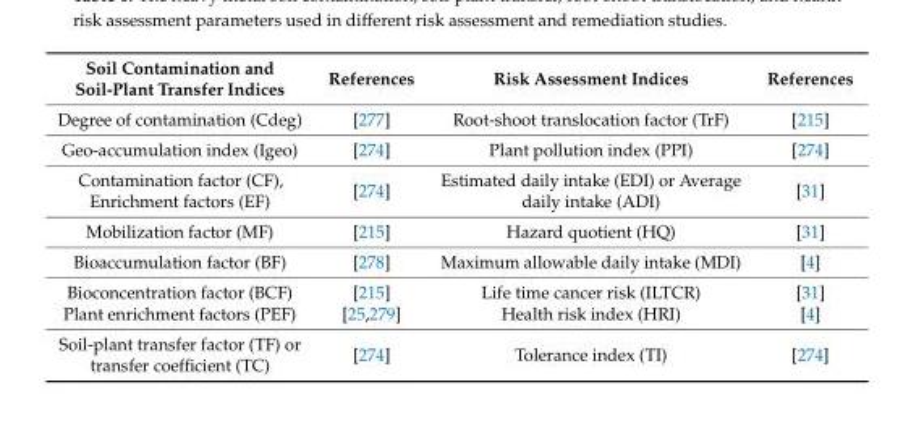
<table><thead><tr><td>Soil Contamination and Soil-Plant Transfer Indices</td><td>References</td><td>Risk Assessment Indices</td><td>References</td></tr></thead><tbody><tr><td>Degree of contamination (Cdeg)</td><td>[277]</td><td>Root-shoot translocation factor (TrF)</td><td>[215]</td></tr><tr><td>Geo-accumulation index (Igeo)</td><td>[274]</td><td>Plant pollution index (PPI)</td><td>[274]</td></tr><tr><td>Contamination factor (CF), Enrichment factors (EF)</td><td>[274]</td><td>Estimated daily intake (EDI) or Average daily intake (ADI)</td><td>[31]</td></tr><tr><td>Mobilization factor (MF)</td><td>[215]</td><td>Hazard quotient (HQ)</td><td>[31]</td></tr><tr><td>Bioaccumulation factor (BF)</td><td>[278]</td><td>Maximum allowable daily intake (MDI)</td><td>[4]</td></tr><tr><td>Bioconcentration factor (BCF)</td><td>[215]</td><td>Life time cancer risk (ILTCR)</td><td>[31]</td></tr><tr><td>Plant enrichment factors (PEF)</td><td>[25,279]</td><td>Health risk index (HRI)</td><td>[4]</td></tr><tr><td>Soil-plant transfer factor (TF) or transfer coefficient (TC)</td><td>[274]</td><td>Tolerance index (TI)</td><td>[274]</td></tr></tbody></table>